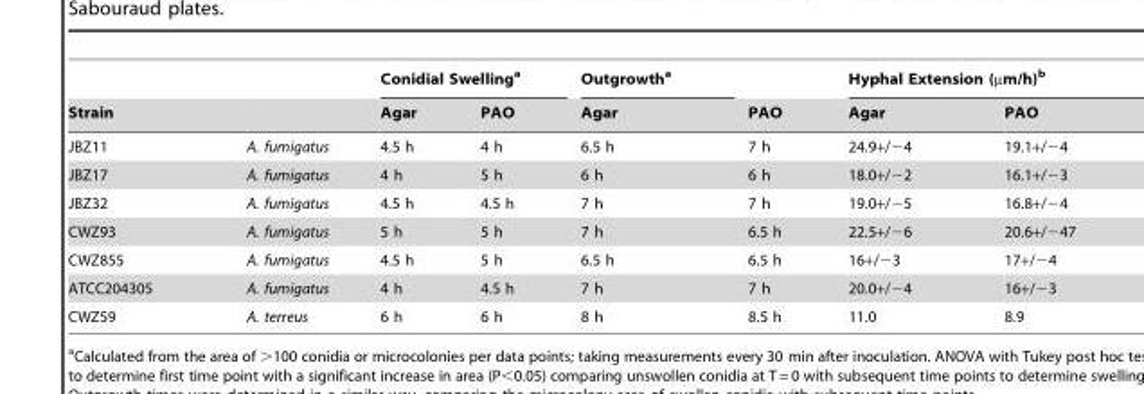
<table><thead><tr><td rowspan="2">Strain</td><td rowspan="2"></td><td colspan="2">Conidial Swelling<sup>a</sup></td><td rowspan="2">Outgrowth<sup>a</sup> Agar</td><td rowspan="2">PAO</td><td colspan="2">Hyphal Extension (µm/h)<sup>b</sup></td></tr><tr><td>Agar</td><td>PAO</td><td>Agar</td><td>PAO</td></tr></thead><tbody><tr><td>JBZ11</td><td>A. fumigatus</td><td>4.5 h</td><td>4 h</td><td>6.5 h</td><td>7 h</td><td>24.9+/−4</td><td>19.1+/−4</td></tr><tr><td>JBZ17</td><td>A. fumigatus</td><td>4 h</td><td>5 h</td><td>6 h</td><td>6 h</td><td>18.0+/−2</td><td>16.1+/−3</td></tr><tr><td>JBZ32</td><td>A. fumigatus</td><td>4.5 h</td><td>4.5 h</td><td>7 h</td><td>7 h</td><td>19.0+/−5</td><td>16.8+/−4</td></tr><tr><td>CWZ93</td><td>A. fumigatus</td><td>5 h</td><td>5 h</td><td>7 h</td><td>6.5 h</td><td>22.5+/−6</td><td>20.6+/−47</td></tr><tr><td>CWZ855</td><td>A. fumigatus</td><td>4.5 h</td><td>5 h</td><td>6.5 h</td><td>6.5 h</td><td>16+/−3</td><td>17+/−4</td></tr><tr><td>ATCC204305</td><td>A. fumigatus</td><td>4 h</td><td>4.5 h</td><td>7 h</td><td>7 h</td><td>20.0+/−4</td><td>16+/−3</td></tr><tr><td>CWZ59</td><td>A. terreus</td><td>6 h</td><td>6 h</td><td>8 h</td><td>8.5 h</td><td>11.0</td><td>8.9</td></tr></tbody></table>